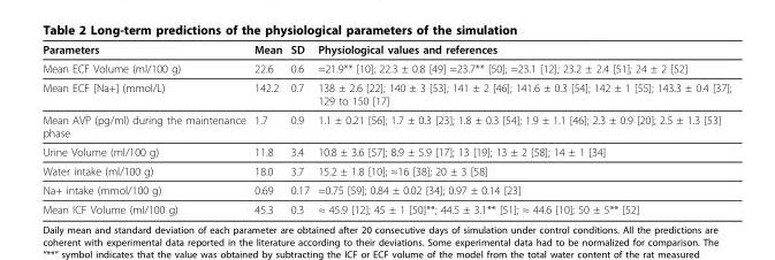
<table><thead><tr><td>Parameters</td><td>Mean</td><td>SD</td><td>Physiological values and references</td></tr></thead><tbody><tr><td>Mean ECF Volume (ml/100 g)</td><td>22.6</td><td>0.6</td><td>≈21.9** [10]; 22.3 ± 0.8 [49] ≈23.7** [50]; ≈23.1 [12]; 23.2 ± 2.4 [51]; 24 ± 2 [52]</td></tr><tr><td>Mean ECF [Na+] (mmol/L)</td><td>142.2</td><td>0.7</td><td>138 ± 2.6 [22]; 140 ± 3 [53]; 141 ± 2 [46]; 141.6 ± 0.3 [54]; 142 ± 1 [55]; 143.3 ± 0.4 [37]; 129 to 150 [17]</td></tr><tr><td>Mean AVP (pg/ml) during the maintenance phase</td><td>1.7</td><td>0.9</td><td>1.1 ± 0.21 [56]; 1.7 ± 0.3 [23]; 1.8 ± 0.3 [54]; 1.9 ± 1.1 [46]; 2.3 ± 0.9 [20]; 2.5 ± 1.3 [53]</td></tr><tr><td>Urine Volume (ml/100 g)</td><td>11.8</td><td>3.4</td><td>10.8 ± 3.6 [57]; 8.9 ± 5.9 [17]; 13 [19]; 13 ± 2 [58]; 14 ± 1 [34]</td></tr><tr><td>Water intake (ml/100 g)</td><td>18.0</td><td>3.7</td><td>15.2 ± 1.8 [10]; ≈16 [38]; 20 ± 3 [58]</td></tr><tr><td>Na+ intake (mmol/100 g)</td><td>0.69</td><td>0.17</td><td>≈0.75 [59]; 0.84 ± 0.02 [34]; 0.97 ± 0.14 [23]</td></tr><tr><td>Mean ICF Volume (ml/100 g)</td><td>45.3</td><td>0.3</td><td>≈ 45.9 [12]; 45 ± 1 [50]**; 44.5 ± 3.1** [51]; ≈ 44.6 [10]; 50 ± 5** [52]</td></tr></tbody></table>